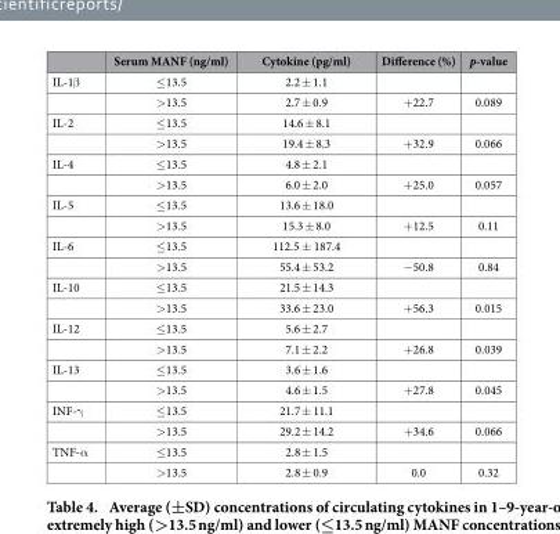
<table><thead><tr><td></td><td>Serum MANF (ng/ml)</td><td>Cytokine (pg/ml)</td><td>Difference (%)</td><td>p-value</td></tr></thead><tbody><tr><td rowspan="2">IL-1β</td><td>≤ 13.5</td><td>2.2 ± 1.1</td><td></td><td></td></tr><tr><td>&gt; 13.5</td><td>2.7 ± 0.9</td><td>+ 22.7</td><td>0.089</td></tr><tr><td rowspan="2">IL-2</td><td>≤ 13.5</td><td>14.6 ± 8.1</td><td></td><td></td></tr><tr><td>&gt; 13.5</td><td>19.4 ± 8.3</td><td>+ 32.9</td><td>0.066</td></tr><tr><td rowspan="2">IL-4</td><td>≤ 13.5</td><td>4.8 ± 2.1</td><td></td><td></td></tr><tr><td>&gt; 13.5</td><td>6.0 ± 2.0</td><td>+ 25.0</td><td>0.057</td></tr><tr><td rowspan="2">IL-5</td><td>≤ 13.5</td><td>13.6 ± 18.0</td><td></td><td></td></tr><tr><td>&gt; 13.5</td><td>15.3 ± 8.0</td><td>+ 12.5</td><td>0.11</td></tr><tr><td rowspan="2">IL-6</td><td>≤ 13.5</td><td>112.5 ± 187.4</td><td></td><td></td></tr><tr><td>&gt; 13.5</td><td>55.4 ± 53.2</td><td>− 50.8</td><td>0.84</td></tr><tr><td rowspan="2">IL-10</td><td>≤ 13.5</td><td>21.5 ± 14.3</td><td></td><td></td></tr><tr><td>&gt; 13.5</td><td>33.6 ± 23.0</td><td>+ 56.3</td><td>0.015</td></tr><tr><td rowspan="2">IL-12</td><td>≤ 13.5</td><td>5.6 ± 2.7</td><td></td><td></td></tr><tr><td>&gt; 13.5</td><td>7.1 ± 2.2</td><td>+ 26.8</td><td>0.039</td></tr><tr><td rowspan="2">IL-13</td><td>≤ 13.5</td><td>3.6 ± 1.6</td><td></td><td></td></tr><tr><td>&gt; 13.5</td><td>4.6 ± 1.5</td><td>+ 27.8</td><td>0.045</td></tr><tr><td rowspan="2">INF-γ</td><td>≤ 13.5</td><td>21.7 ± 11.1</td><td></td><td></td></tr><tr><td>&gt; 13.5</td><td>29.2 ± 14.2</td><td>+ 34.6</td><td>0.066</td></tr><tr><td rowspan="2">TNF-α</td><td>≤ 13.5</td><td>2.8 ± 1.5</td><td></td><td></td></tr><tr><td>&gt; 13.5</td><td>2.8 ± 0.9</td><td>0.0</td><td>0.32</td></tr></tbody></table>